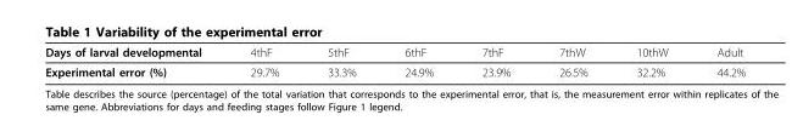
<table><thead><tr><td>Days of larval developmental</td><td>4thF</td><td>5thF</td><td>6thF</td><td>7thF</td><td>7thW</td><td>10thW</td><td>Adult</td></tr></thead><tbody><tr><td>Experimental error (%)</td><td>29.7%</td><td>33.3%</td><td>24.9%</td><td>23.9%</td><td>26.5%</td><td>32.2%</td><td>44.2%</td></tr></tbody></table>